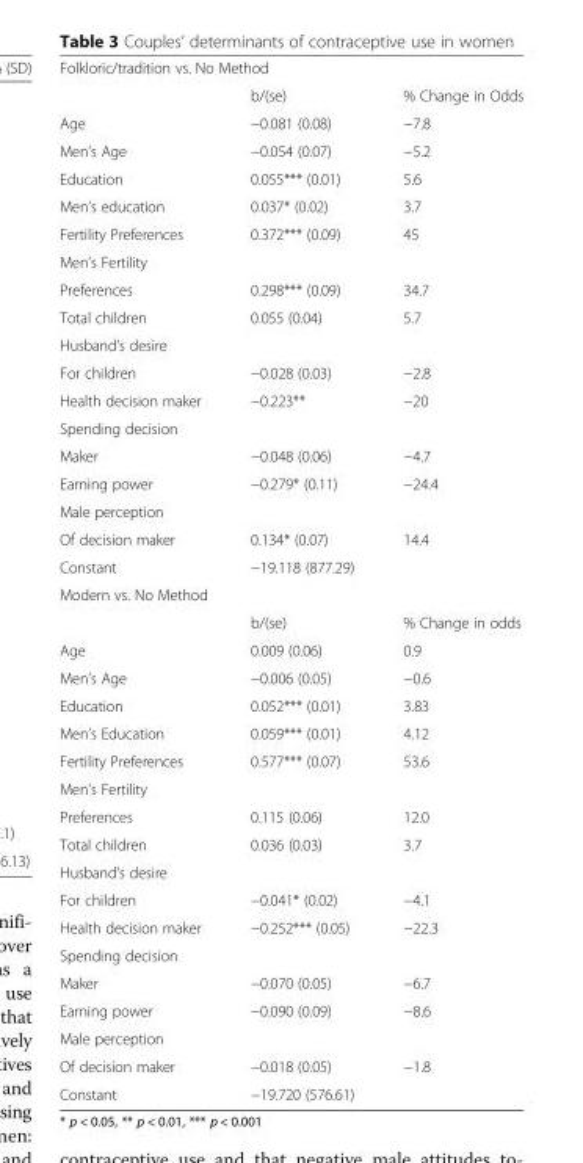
<table><tbody><tr><td colspan="3">Folkloric/tradition vs. No Method</td></tr><tr><td></td><td>b/(se)</td><td>% Change in Odds</td></tr><tr><td>Age</td><td>−0.081 (0.08)</td><td>−7.8</td></tr><tr><td>Men’s Age</td><td>−0.054 (0.07)</td><td>−5.2</td></tr><tr><td>Education</td><td>0.055*** (0.01)</td><td>5.6</td></tr><tr><td>Men’s education</td><td>0.037* (0.02)</td><td>3.7</td></tr><tr><td>Fertility Preferences</td><td>0.372*** (0.09)</td><td>45</td></tr><tr><td colspan="3">Men’s Fertility</td></tr><tr><td>Preferences</td><td>0.298*** (0.09)</td><td>34.7</td></tr><tr><td>Total children</td><td>0.055 (0.04)</td><td>5.7</td></tr><tr><td colspan="3">Husband’s desire</td></tr><tr><td>For children</td><td>−0.028 (0.03)</td><td>−2.8</td></tr><tr><td>Health decision maker</td><td>−0.223**</td><td>−20</td></tr><tr><td colspan="3">Spending decision</td></tr><tr><td>Maker</td><td>−0.048 (0.06)</td><td>−4.7</td></tr><tr><td>Earning power</td><td>−0.279* (0.11)</td><td>−24.4</td></tr><tr><td colspan="3">Male perception</td></tr><tr><td>Of decision maker</td><td>0.134* (0.07)</td><td>14.4</td></tr><tr><td>Constant</td><td>−19.118 (877.29)</td><td></td></tr><tr><td colspan="3">Modern vs. No Method</td></tr><tr><td></td><td>b/(se)</td><td>% Change in odds</td></tr><tr><td>Age</td><td>0.009 (0.06)</td><td>0.9</td></tr><tr><td>Men’s Age</td><td>−0.006 (0.05)</td><td>−0.6</td></tr><tr><td>Education</td><td>0.052*** (0.01)</td><td>3.83</td></tr><tr><td>Men’s Education</td><td>0.059*** (0.01)</td><td>4.12</td></tr><tr><td>Fertility Preferences</td><td>0.577*** (0.07)</td><td>53.6</td></tr><tr><td colspan="3">Men’s Fertility</td></tr><tr><td>Preferences</td><td>0.115 (0.06)</td><td>12.0</td></tr><tr><td>Total children</td><td>0.036 (0.03)</td><td>3.7</td></tr><tr><td colspan="3">Husband’s desire</td></tr><tr><td>For children</td><td>−0.041* (0.02)</td><td>−4.1</td></tr><tr><td>Health decision maker</td><td>−0.252*** (0.05)</td><td>−22.3</td></tr><tr><td colspan="3">Spending decision</td></tr><tr><td>Maker</td><td>−0.070 (0.05)</td><td>−6.7</td></tr><tr><td>Earning power</td><td>−0.090 (0.09)</td><td>−8.6</td></tr><tr><td colspan="3">Male perception</td></tr><tr><td>Of decision maker</td><td>−0.018 (0.05)</td><td>−1.8</td></tr><tr><td>Constant</td><td>−19.720 (576.61)</td><td></td></tr></tbody></table>